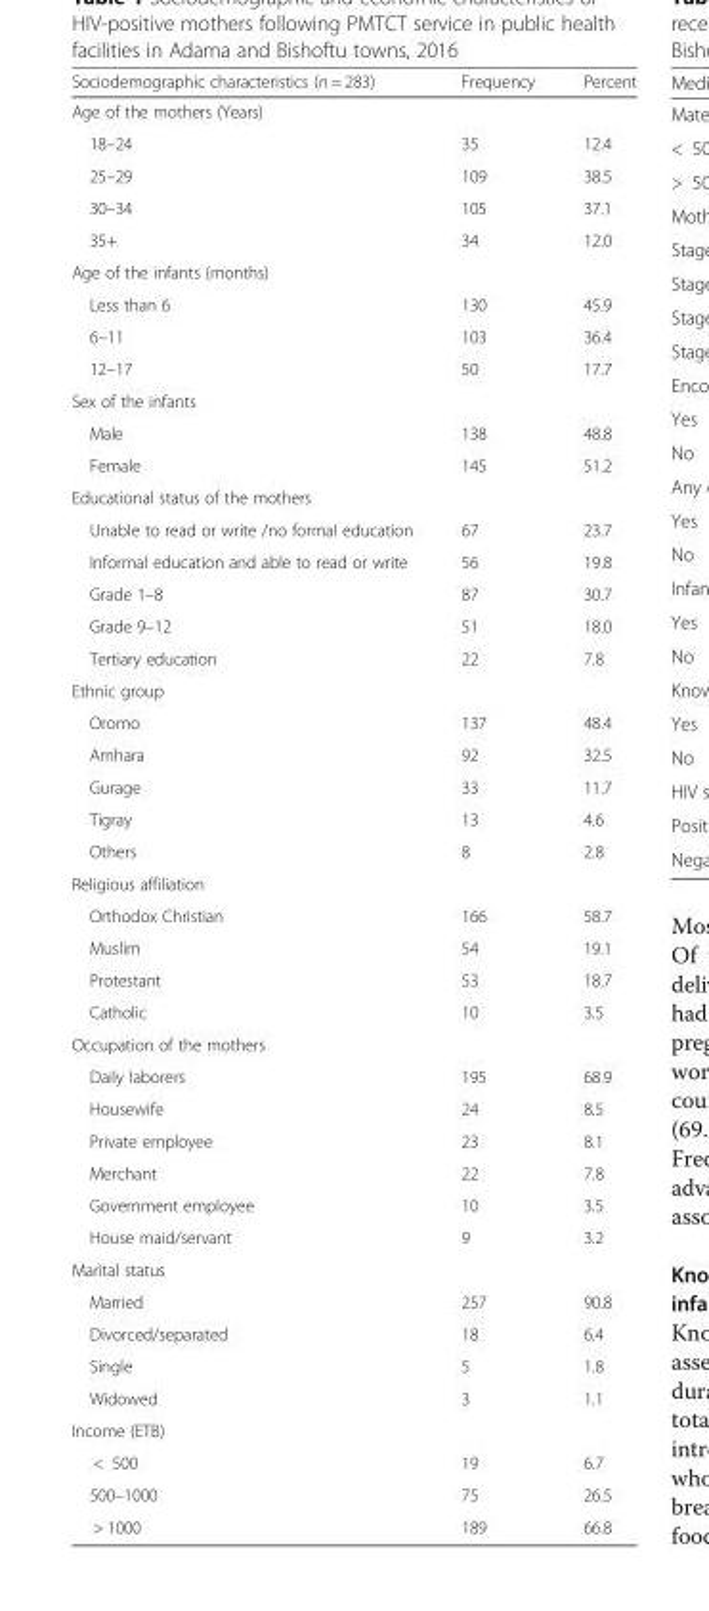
<table><thead><tr><td>Sociodemographic characteristics (n = 283)</td><td>Frequency</td><td>Percent</td></tr></thead><tbody><tr><td colspan="3">Age of the mothers (Years)</td></tr><tr><td>18–24</td><td>35</td><td>12.4</td></tr><tr><td>25–29</td><td>109</td><td>38.5</td></tr><tr><td>30–34</td><td>105</td><td>37.1</td></tr><tr><td>35+</td><td>34</td><td>12.0</td></tr><tr><td colspan="3">Age of the infants (months)</td></tr><tr><td>Less than 6</td><td>130</td><td>45.9</td></tr><tr><td>6–11</td><td>103</td><td>36.4</td></tr><tr><td>12–17</td><td>50</td><td>17.7</td></tr><tr><td colspan="3">Sex of the infants</td></tr><tr><td>Male</td><td>138</td><td>48.8</td></tr><tr><td>Female</td><td>145</td><td>51.2</td></tr><tr><td colspan="3">Educational status of the mothers</td></tr><tr><td>Unable to read or write /no formal education</td><td>67</td><td>23.7</td></tr><tr><td>Informal education and able to read or write</td><td>56</td><td>19.8</td></tr><tr><td>Grade 1–8</td><td>87</td><td>30.7</td></tr><tr><td>Grade 9–12</td><td>51</td><td>18.0</td></tr><tr><td>Tertiary education</td><td>22</td><td>7.8</td></tr><tr><td colspan="3">Ethnic group</td></tr><tr><td>Oromo</td><td>137</td><td>48.4</td></tr><tr><td>Amhara</td><td>92</td><td>32.5</td></tr><tr><td>Gurage</td><td>33</td><td>11.7</td></tr><tr><td>Tigray</td><td>13</td><td>4.6</td></tr><tr><td>Others</td><td>8</td><td>2.8</td></tr><tr><td colspan="3">Religious affiliation</td></tr><tr><td>Orthodox Christian</td><td>166</td><td>58.7</td></tr><tr><td>Muslim</td><td>54</td><td>19.1</td></tr><tr><td>Protestant</td><td>53</td><td>18.7</td></tr><tr><td>Catholic</td><td>10</td><td>3.5</td></tr><tr><td colspan="3">Occupation of the mothers</td></tr><tr><td>Daily laborers</td><td>195</td><td>68.9</td></tr><tr><td>Housewife</td><td>24</td><td>8.5</td></tr><tr><td>Private employee</td><td>23</td><td>8.1</td></tr><tr><td>Merchant</td><td>22</td><td>7.8</td></tr><tr><td>Government employee</td><td>10</td><td>3.5</td></tr><tr><td>House maid/servant</td><td>9</td><td>3.2</td></tr><tr><td colspan="3">Marital status</td></tr><tr><td>Married</td><td>257</td><td>90.8</td></tr><tr><td>Divorced/separated</td><td>18</td><td>6.4</td></tr><tr><td>Single</td><td>5</td><td>1.8</td></tr><tr><td>Widowed</td><td>3</td><td>1.1</td></tr><tr><td colspan="3">Income (ETB)</td></tr><tr><td>&lt; 500</td><td>19</td><td>6.7</td></tr><tr><td>500–1000</td><td>75</td><td>26.5</td></tr><tr><td>&gt; 1000</td><td>189</td><td>66.8</td></tr></tbody></table>